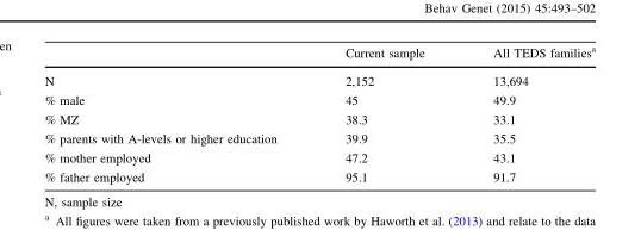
<table><thead><tr><td></td><td>Current sample</td><td>All TEDS families<sup>a</sup></td></tr></thead><tbody><tr><td>N</td><td>2,152</td><td>13,694</td></tr><tr><td>% male</td><td>45</td><td>49.9</td></tr><tr><td>% MZ</td><td>38.3</td><td>33.1</td></tr><tr><td>% parents with A-levels or higher education</td><td>39.9</td><td>35.5</td></tr><tr><td>% mother employed</td><td>47.2</td><td>43.1</td></tr><tr><td>% father employed</td><td>95.1</td><td>91.7</td></tr></tbody></table>